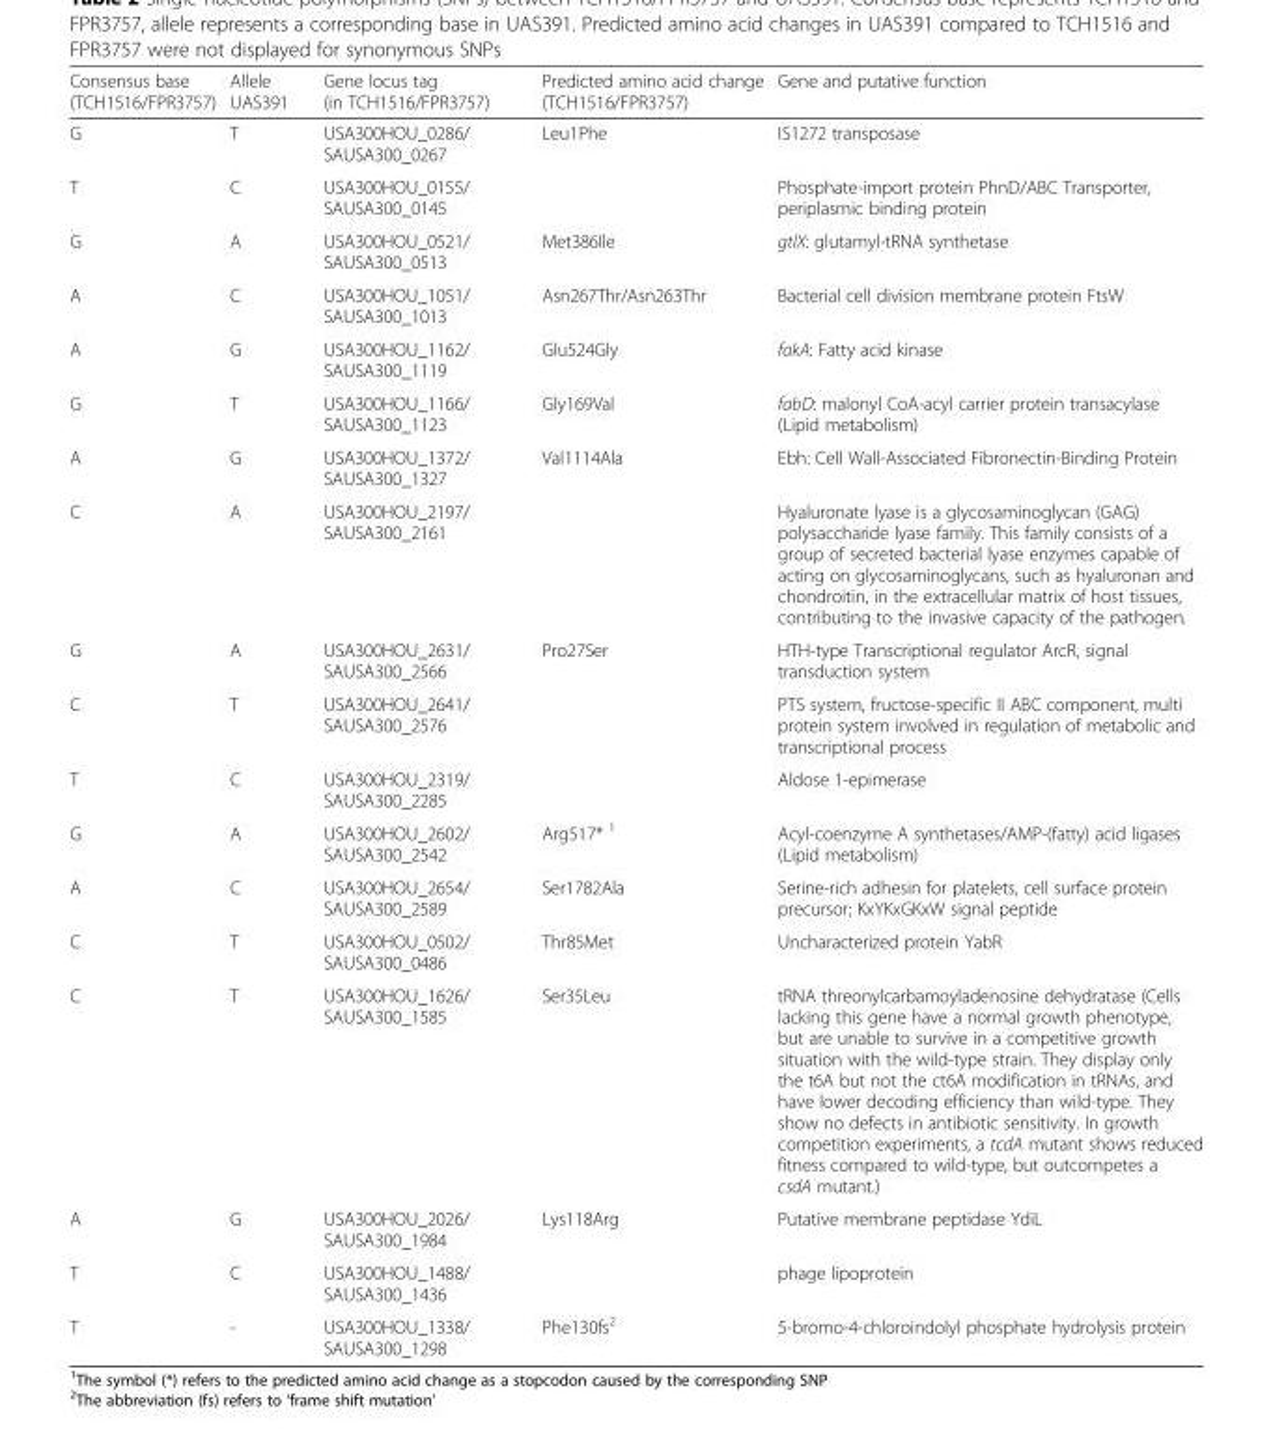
<table><thead><tr><td>Consensus base (TCH1516/FPR3757)</td><td>Allele UAS391</td><td>Gene locus tag (in TCH1516/FPR3757)</td><td>Predicted amino acid change (TCH1516/FPR3757)</td><td>Gene and putative function</td></tr></thead><tbody><tr><td>G</td><td>T</td><td>USA300HOU_0286/ SAUSA300_0267</td><td>Leu1Phe</td><td>IS1272 transposase</td></tr><tr><td>T</td><td>C</td><td>USA300HOU_0155/ SAUSA300_0145</td><td></td><td>Phosphate-import protein PhnD/ABC Transporter, periplasmic binding protein</td></tr><tr><td>G</td><td>A</td><td>USA300HOU_0521/ SAUSA300_0513</td><td>Met386Ile</td><td>gtlX: glutamyl-tRNA synthetase</td></tr><tr><td>A</td><td>C</td><td>USA300HOU_1051/ SAUSA300_1013</td><td>Asn267Thr/Asn263Thr</td><td>Bacterial cell division membrane protein FtsW</td></tr><tr><td>A</td><td>G</td><td>USA300HOU_1162/ SAUSA300_1119</td><td>Glu524Gly</td><td>fakA: Fatty acid kinase</td></tr><tr><td>G</td><td>T</td><td>USA300HOU_1166/ SAUSA300_1123</td><td>Gly169Val</td><td>fabD: malonyl CoA-acyl carrier protein transacylase (Lipid metabolism)</td></tr><tr><td>A</td><td>G</td><td>USA300HOU_1372/ SAUSA300_1327</td><td>Val1114Ala</td><td>Ebh: Cell Wall-Associated Fibronectin-Binding Protein</td></tr><tr><td>C</td><td>A</td><td>USA300HOU_2197/ SAUSA300_2161</td><td></td><td>Hyaluronate lyase is a glycosaminoglycan (GAG) polysaccharide lyase family. This family consists of a group of secreted bacterial lyase enzymes capable of acting on glycosaminoglycans, such as hyaluronan and chondroitin, in the extracellular matrix of host tissues, contributing to the invasive capacity of the pathogen.</td></tr><tr><td>G</td><td>A</td><td>USA300HOU_2631/ SAUSA300_2566</td><td>Pro27Ser</td><td>HTH-type Transcriptional regulator ArcR, signal transduction system</td></tr><tr><td>C</td><td>T</td><td>USA300HOU_2641/ SAUSA300_2576</td><td></td><td>PTS system, fructose-specific II ABC component, multi protein system involved in regulation of metabolic and transcriptional process</td></tr><tr><td>T</td><td>C</td><td>USA300HOU_2319/ SAUSA300_2285</td><td></td><td>Aldose 1-epimerase</td></tr><tr><td>G</td><td>A</td><td>USA300HOU_2602/ SAUSA300_2542</td><td>Arg517* <sup>1</sup></td><td>Acyl-coenzyme A synthetases/AMP-(fatty) acid ligases (Lipid metabolism)</td></tr><tr><td>A</td><td>C</td><td>USA300HOU_2654/ SAUSA300_2589</td><td>Ser1782Ala</td><td>Serine-rich adhesin for platelets, cell surface protein precursor; KxYKxGKxW signal peptide</td></tr><tr><td>C</td><td>T</td><td>USA300HOU_0502/ SAUSA300_0486</td><td>Thr85Met</td><td>Uncharacterized protein YabR</td></tr><tr><td>C</td><td>T</td><td>USA300HOU_1626/ SAUSA300_1585</td><td>Ser35Leu</td><td>tRNA threonylcarbamoyladenosine dehydratase (Cells lacking this gene have a normal growth phenotype, but are unable to survive in a competitive growth situation with the wild-type strain. They display only the t6A but not the ct6A modification in tRNAs, and have lower decoding efficiency than wild-type. They show no defects in antibiotic sensitivity. In growth competition experiments, a tcdA mutant shows reduced fitness compared to wild-type, but outcompetes a csdA mutant.)</td></tr><tr><td>A</td><td>G</td><td>USA300HOU_2026/ SAUSA300_1984</td><td>Lys118Arg</td><td>Putative membrane peptidase YdiL</td></tr><tr><td>T</td><td>C</td><td>USA300HOU_1488/ SAUSA300_1436</td><td></td><td>phage lipoprotein</td></tr><tr><td>T</td><td>-</td><td>USA300HOU_1338/ SAUSA300_1298</td><td>Phe130fs<sup>2</sup></td><td>5-bromo-4-chloroindolyl phosphate hydrolysis protein</td></tr></tbody></table>